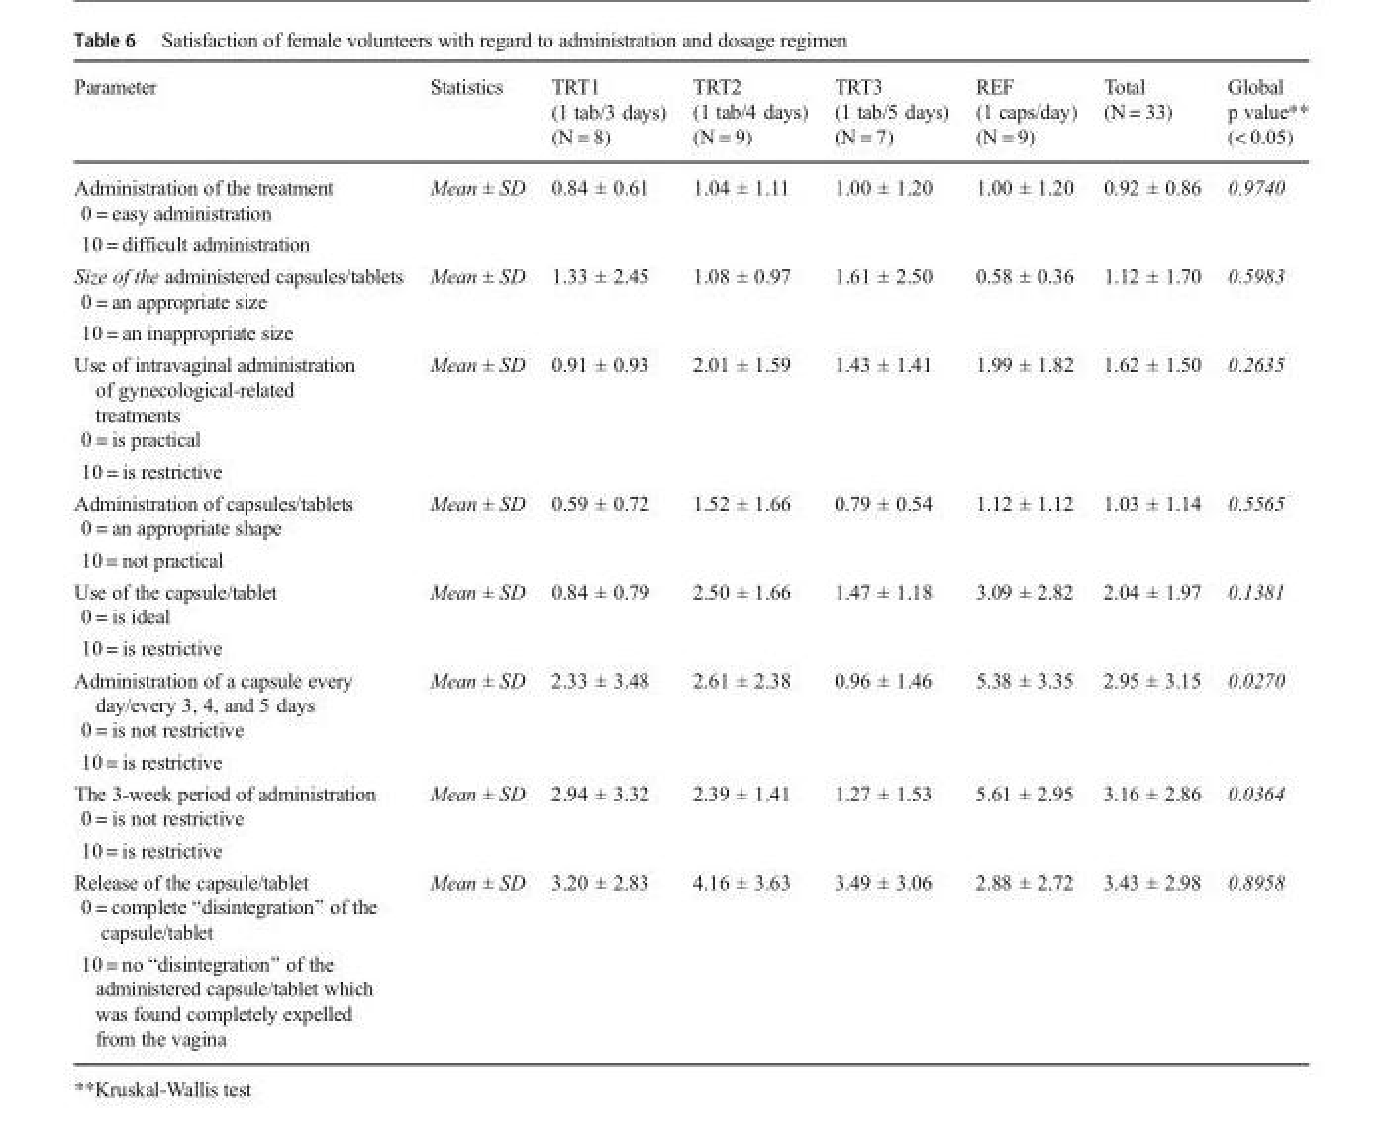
<table><thead><tr><td>Parameter</td><td>Statistics</td><td>TRT1 (1 tab/3 days) (N = 8)</td><td>TRT2 (1 tab/4 days) (N = 9)</td><td>TRT3 (1 tab/5 days) (N = 7)</td><td>REF (1 caps/day) (N = 9)</td><td>Total (N = 33)</td><td>Global p value** (&lt; 0.05)</td></tr></thead><tbody><tr><td>Administration of the treatment</td><td rowspan="3">Mean ± SD</td><td rowspan="3">0.84 ± 0.61</td><td rowspan="3">1.04 ± 1.11</td><td rowspan="3">1.00 ± 1.20</td><td rowspan="3">1.00 ± 1.20</td><td rowspan="3">0.92 ± 0.86</td><td rowspan="3">0.9740</td></tr><tr><td>0 = easy administration</td></tr><tr><td>10 = difficult administration</td></tr><tr><td>Size of the administered capsules/tablets</td><td rowspan="3">Mean ± SD</td><td rowspan="3">1.33 ± 2.45</td><td rowspan="3">1.08 ± 0.97</td><td rowspan="3">1.61 ± 2.50</td><td rowspan="3">0.58 ± 0.36</td><td rowspan="3">1.12 ± 1.70</td><td rowspan="3">0.5983</td></tr><tr><td>0 = an appropriate size</td></tr><tr><td>10 = an inappropriate size</td></tr><tr><td>Use of intravaginal administration of gynecological-related treatments</td><td rowspan="3">Mean ± SD</td><td rowspan="3">0.91 ± 0.93</td><td rowspan="3">2.01 ± 1.59</td><td rowspan="3">1.43 ± 1.41</td><td rowspan="3">1.99 ± 1.82</td><td rowspan="3">1.62 ± 1.50</td><td rowspan="3">0.2635</td></tr><tr><td>0 = is practical</td></tr><tr><td>10 = is restrictive</td></tr><tr><td>Administration of capsules/tablets</td><td rowspan="3">Mean ± SD</td><td rowspan="3">0.59 ± 0.72</td><td rowspan="3">1.52 ± 1.66</td><td rowspan="3">0.79 ± 0.54</td><td rowspan="3">1.12 ± 1.12</td><td rowspan="3">1.03 ± 1.14</td><td rowspan="3">0.5565</td></tr><tr><td>0 = an appropriate shape</td></tr><tr><td>10 = not practical</td></tr><tr><td>Use of the capsule/tablet</td><td rowspan="3">Mean ± SD</td><td rowspan="3">0.84 ± 0.79</td><td rowspan="3">2.50 ± 1.66</td><td rowspan="3">1.47 ± 1.18</td><td rowspan="3">3.09 ± 2.82</td><td rowspan="3">2.04 ± 1.97</td><td rowspan="3">0.1381</td></tr><tr><td>0 = is ideal</td></tr><tr><td>10 = is restrictive</td></tr><tr><td>Administration of a capsule every day/every 3, 4, and 5 days</td><td rowspan="3">Mean ± SD</td><td rowspan="3">2.33 ± 3.48</td><td rowspan="3">2.61 ± 2.38</td><td rowspan="3">0.96 ± 1.46</td><td rowspan="3">5.38 ± 3.35</td><td rowspan="3">2.95 ± 3.15</td><td rowspan="3">0.0270</td></tr><tr><td>0 = is not restrictive</td></tr><tr><td>10 = is restrictive</td></tr><tr><td>The 3-week period of administration</td><td rowspan="3">Mean ± SD</td><td rowspan="3">2.94 ± 3.32</td><td rowspan="3">2.39 ± 1.41</td><td rowspan="3">1.27 ± 1.53</td><td rowspan="3">5.61 ± 2.95</td><td rowspan="3">3.16 ± 2.86</td><td rowspan="3">0.0364</td></tr><tr><td>0 = is not restrictive</td></tr><tr><td>10 = is restrictive</td></tr><tr><td>Release of the capsule/tablet</td><td rowspan="3">Mean ± SD</td><td rowspan="3">3.20 ± 2.83</td><td rowspan="3">4.16 ± 3.63</td><td rowspan="3">3.49 ± 3.06</td><td rowspan="3">2.88 ± 2.72</td><td rowspan="3">3.43 ± 2.98</td><td rowspan="3">0.8958</td></tr><tr><td>0 = complete “disintegration” of the capsule/tablet</td></tr><tr><td>10 = no “disintegration” of the administered capsule/tablet which was found completely expelled from the vagina</td></tr></tbody></table>